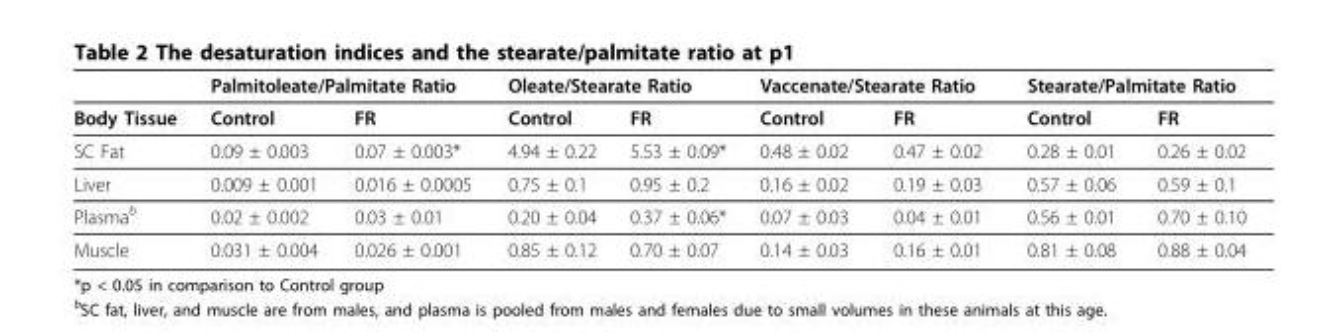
<table><thead><tr><td rowspan="2">Body Tissue</td><td colspan="2">Palmitoleate/Palmitate Ratio</td><td colspan="2">Oleate/Stearate Ratio</td><td colspan="2">Vaccenate/Stearate Ratio</td><td colspan="2">Stearate/Palmitate Ratio</td></tr><tr><td>Control</td><td>FR</td><td>Control</td><td>FR</td><td>Control</td><td>FR</td><td>Control</td><td>FR</td></tr></thead><tbody><tr><td>SC Fat</td><td>0.09 ± 0.003</td><td>0.07 ± 0.003*</td><td>4.94 ± 0.22</td><td>5.53 ± 0.09*</td><td>0.48 ± 0.02</td><td>0.47 ± 0.02</td><td>0.28 ± 0.01</td><td>0.26 ± 0.02</td></tr><tr><td>Liver</td><td>0.009 ± 0.001</td><td>0.016 ± 0.0005</td><td>0.75 ± 0.1</td><td>0.95 ± 0.2</td><td>0.16 ± 0.02</td><td>0.19 ± 0.03</td><td>0.57 ± 0.06</td><td>0.59 ± 0.1</td></tr><tr><td>Plasma<sup>b</sup></td><td>0.02 ± 0.002</td><td>0.03 ± 0.01</td><td>0.20 ± 0.04</td><td>0.37 ± 0.06*</td><td>0.07 ± 0.03</td><td>0.04 ± 0.01</td><td>0.56 ± 0.01</td><td>0.70 ± 0.10</td></tr><tr><td>Muscle</td><td>0.031 ± 0.004</td><td>0.026 ± 0.001</td><td>0.85 ± 0.12</td><td>0.70 ± 0.07</td><td>0.14 ± 0.03</td><td>0.16 ± 0.01</td><td>0.81 ± 0.08</td><td>0.88 ± 0.04</td></tr></tbody></table>